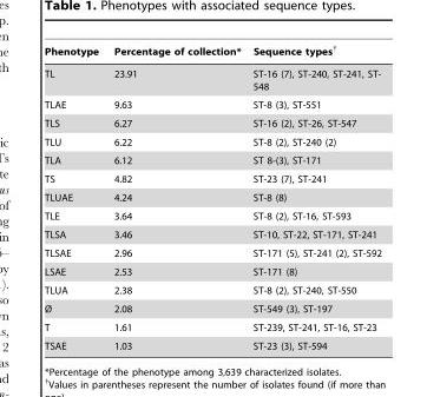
<table><thead><tr><td>Phenotype</td><td>Percentage of collection*</td><td>Sequence types†</td></tr></thead><tbody><tr><td>TL</td><td>23.91</td><td>ST-16 (7), ST-240, ST-241, ST- 548</td></tr><tr><td>TLAE</td><td>9.63</td><td>ST-8 (3), ST-551</td></tr><tr><td>TLS</td><td>6.27</td><td>ST-16 (2), ST-26, ST-547</td></tr><tr><td>TLU</td><td>6.22</td><td>ST-8 (2), ST-240 (2)</td></tr><tr><td>TLA</td><td>6.12</td><td>ST 8-(3), ST-171</td></tr><tr><td>TS</td><td>4.82</td><td>ST-23 (7), ST-241</td></tr><tr><td>TLUAE</td><td>4.24</td><td>ST-8 (8)</td></tr><tr><td>TLE</td><td>3.64</td><td>ST-8 (2), ST-16, ST-593</td></tr><tr><td>TLSA</td><td>3.46</td><td>ST-10, ST-22, ST-171, ST-241</td></tr><tr><td>TLSAE</td><td>2.96</td><td>ST-171 (5), ST-241 (2), ST-592</td></tr><tr><td>LSAE</td><td>2.53</td><td>ST-171 (8)</td></tr><tr><td>TLUA</td><td>2.38</td><td>ST-8 (2), ST-240, ST-550</td></tr><tr><td>Ø</td><td>2.08</td><td>ST-549 (3), ST-197</td></tr><tr><td>T</td><td>1.61</td><td>ST-239, ST-241, ST-16, ST-23</td></tr><tr><td>TSAE</td><td>1.03</td><td>ST-23 (3), ST-594</td></tr></tbody></table>